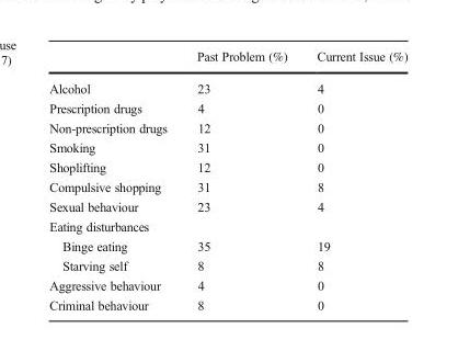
<table><thead><tr><td></td><td>Past Problem (%)</td><td>Current Issue (%)</td></tr></thead><tbody><tr><td>Alcohol</td><td>23</td><td>4</td></tr><tr><td>Prescription drugs</td><td>4</td><td>0</td></tr><tr><td>Non-prescription drugs</td><td>12</td><td>0</td></tr><tr><td>Smoking</td><td>31</td><td>0</td></tr><tr><td>Shoplifting</td><td>12</td><td>0</td></tr><tr><td>Compulsive shopping</td><td>31</td><td>8</td></tr><tr><td>Sexual behaviour</td><td>23</td><td>4</td></tr><tr><td colspan="3">Eating disturbances</td></tr><tr><td>Binge eating</td><td>35</td><td>19</td></tr><tr><td>Starving self</td><td>8</td><td>8</td></tr><tr><td>Aggressive behaviour</td><td>4</td><td>0</td></tr><tr><td>Criminal behaviour</td><td>8</td><td>0</td></tr></tbody></table>